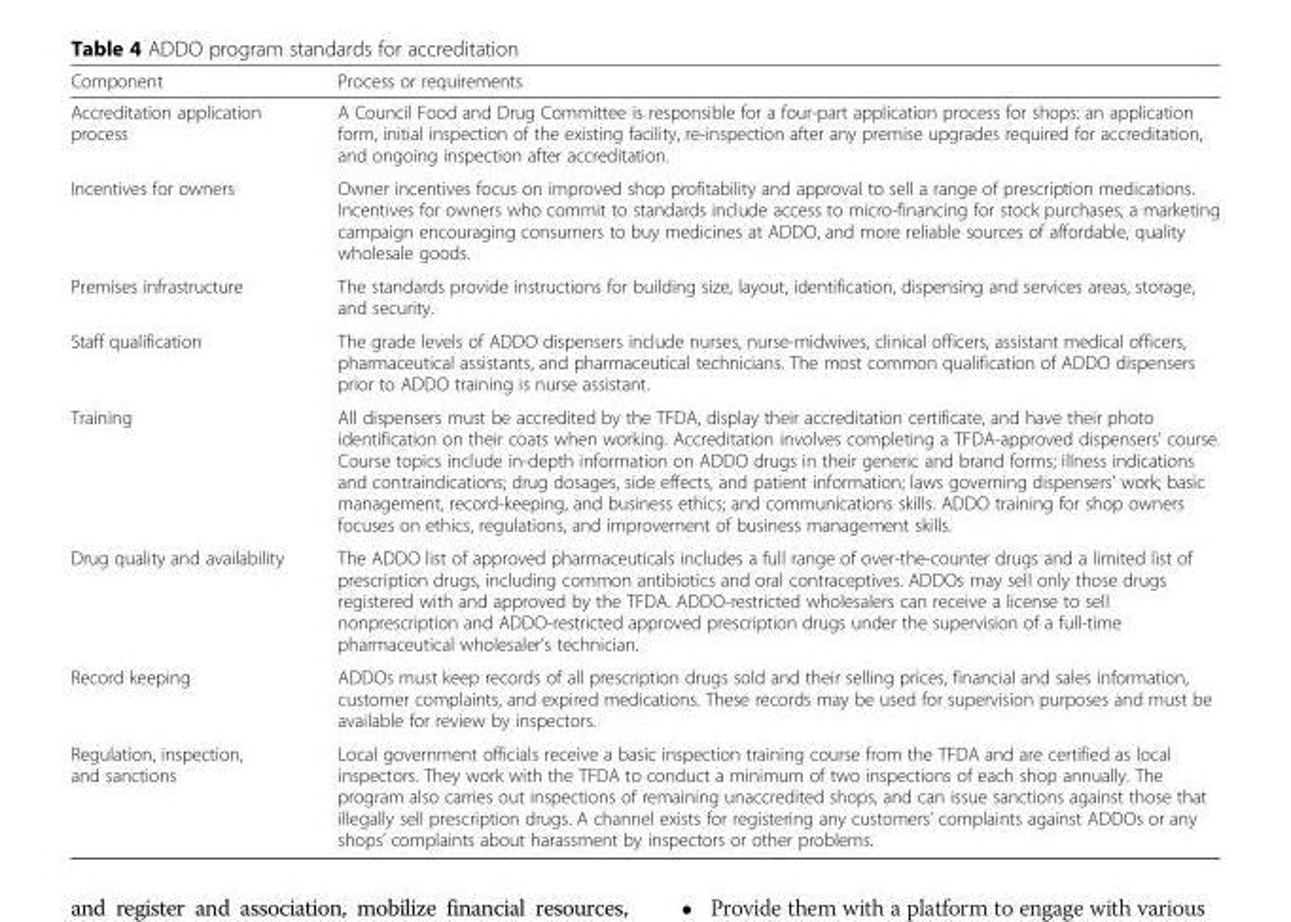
<table><thead><tr><td>Component</td><td>Process or requirements</td></tr></thead><tbody><tr><td>Accreditation application process</td><td>A Council Food and Drug Committee is responsible for a four-part application process for shops: an application form, initial inspection of the existing facility, re-inspection after any premise upgrades required for accreditation, and ongoing inspection after accreditation.</td></tr><tr><td>Incentives for owners</td><td>Owner incentives focus on improved shop profitability and approval to sell a range of prescription medications. Incentives for owners who commit to standards include access to micro-financing for stock purchases, a marketing campaign encouraging consumers to buy medicines at ADDO, and more reliable sources of affordable, quality wholesale goods.</td></tr><tr><td>Premises infrastructure</td><td>The standards provide instructions for building size, layout, identification, dispensing and services areas, storage, and security.</td></tr><tr><td>Staff qualification</td><td>The grade levels of ADDO dispensers include nurses, nurse-midwives, clinical officers, assistant medical officers, pharmaceutical assistants, and pharmaceutical technicians. The most common qualification of ADDO dispensers prior to ADDO training is nurse assistant.</td></tr><tr><td>Training</td><td>All dispensers must be accredited by the TFDA, display their accreditation certificate, and have their photo identification on their coats when working. Accreditation involves completing a TFDA-approved dispensers’ course. Course topics include in-depth information on ADDO drugs in their generic and brand forms; illness indications and contraindications; drug dosages, side effects, and patient information; laws governing dispensers’ work; basic management, record-keeping, and business ethics; and communications skills. ADDO training for shop owners focuses on ethics, regulations, and improvement of business management skills.</td></tr><tr><td>Drug quality and availability</td><td>The ADDO list of approved pharmaceuticals includes a full range of over-the-counter drugs and a limited list of prescription drugs, including common antibiotics and oral contraceptives. ADDOs may sell only those drugs registered with and approved by the TFDA. ADDO-restricted wholesalers can receive a license to sell nonprescription and ADDO-restricted approved prescription drugs under the supervision of a full-time pharmaceutical wholesaler’s technician.</td></tr><tr><td>Record keeping</td><td>ADDOs must keep records of all prescription drugs sold and their selling prices, financial and sales information, customer complaints, and expired medications. These records may be used for supervision purposes and must be available for review by inspectors.</td></tr><tr><td>Regulation, inspection, and sanctions</td><td>Local government officials receive a basic inspection training course from the TFDA and are certified as local inspectors. They work with the TFDA to conduct a minimum of two inspections of each shop annually. The program also carries out inspections of remaining unaccredited shops, and can issue sanctions against those that illegally sell prescription drugs. A channel exists for registering any customers’ complaints against ADDOs or any shops’ complaints about harassment by inspectors or other problems.</td></tr></tbody></table>